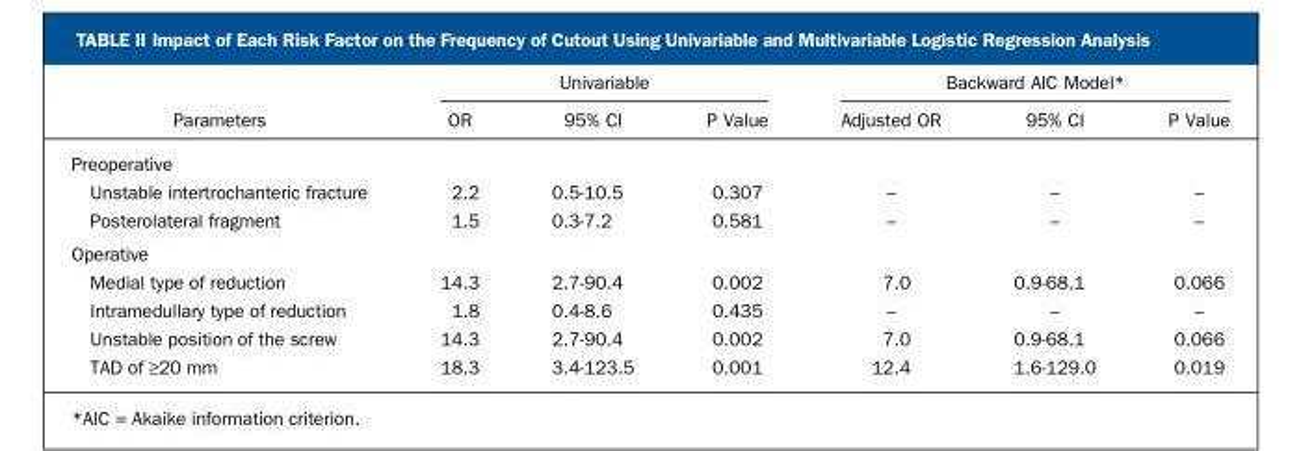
<table><thead><tr><td rowspan="2">Parameters</td><td colspan="3">Univariable</td><td colspan="3">Backward AIC Model*</td></tr><tr><td>OR</td><td>95% CI</td><td>P Value</td><td>Adjusted OR</td><td>95% CI</td><td>P Value</td></tr></thead><tbody><tr><td colspan="7">Preoperative</td></tr><tr><td>Unstable intertrochanteric fracture</td><td>2.2</td><td>0.5-10.5</td><td>0.307</td><td>–</td><td>–</td><td>–</td></tr><tr><td>Posterolateral fragment</td><td>1.5</td><td>0.3-7.2</td><td>0.581</td><td>–</td><td>–</td><td>–</td></tr><tr><td colspan="7">Operative</td></tr><tr><td>Medial type of reduction</td><td>14.3</td><td>2.7-90.4</td><td>0.002</td><td>7.0</td><td>0.9-68.1</td><td>0.066</td></tr><tr><td>Intramedullary type of reduction</td><td>1.8</td><td>0.4-8.6</td><td>0.435</td><td>–</td><td>–</td><td>–</td></tr><tr><td>Unstable position of the screw</td><td>14.3</td><td>2.7-90.4</td><td>0.002</td><td>7.0</td><td>0.9-68.1</td><td>0.066</td></tr><tr><td>TAD of ‡20 mm</td><td>18.3</td><td>3.4-123.5</td><td>0.001</td><td>12.4</td><td>1.6-129.0</td><td>0.019</td></tr></tbody></table>